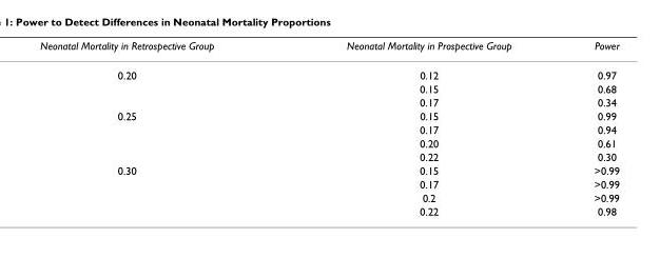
<table><thead><tr><td>Neonatal Mortality in Retrospective Group</td><td>Neonatal Mortality in Prospective Group</td><td>Power</td></tr></thead><tbody><tr><td rowspan="3">0.20</td><td>0.12</td><td>0.97</td></tr><tr><td>0.15</td><td>0.68</td></tr><tr><td>0.17</td><td>0.34</td></tr><tr><td rowspan="4">0.25</td><td>0.15</td><td>0.99</td></tr><tr><td>0.17</td><td>0.94</td></tr><tr><td>0.20</td><td>0.61</td></tr><tr><td>0.22</td><td>0.30</td></tr><tr><td rowspan="4">0.30</td><td>0.15</td><td>&gt;0.99</td></tr><tr><td>0.17</td><td>&gt;0.99</td></tr><tr><td>0.2</td><td>&gt;0.99</td></tr><tr><td>0.22</td><td>0.98</td></tr></tbody></table>